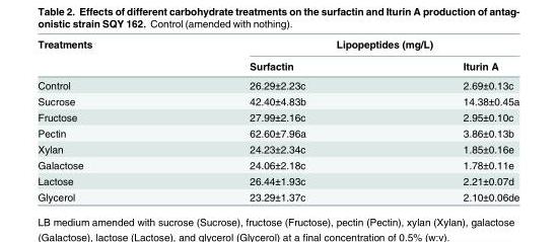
<table><thead><tr><td rowspan="2">Treatments</td><td colspan="2">Lipopeptides (mg/L)</td></tr><tr><td>Surfactin</td><td>Iturin A</td></tr></thead><tbody><tr><td>Control</td><td>26.29±2.23c</td><td>2.69±0.13c</td></tr><tr><td>Sucrose</td><td>42.40±4.83b</td><td>14.38±0.45a</td></tr><tr><td>Fructose</td><td>27.99±2.16c</td><td>2.95±0.10c</td></tr><tr><td>Pectin</td><td>62.60±7.96a</td><td>3.86±0.13b</td></tr><tr><td>Xylan</td><td>24.23±2.34c</td><td>1.85±0.16e</td></tr><tr><td>Galactose</td><td>24.06±2.18c</td><td>1.78±0.11e</td></tr><tr><td>Lactose</td><td>26.44±1.93c</td><td>2.21±0.07d</td></tr><tr><td>Glycerol</td><td>23.29±1.37c</td><td>2.10±0.06de</td></tr></tbody></table>